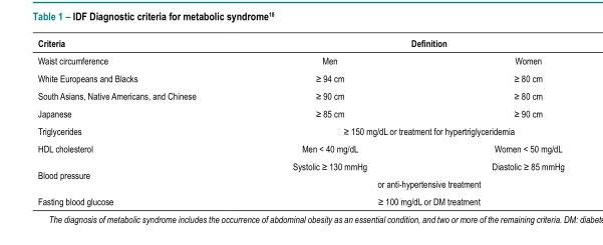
<table><thead><tr><td rowspan="2">Criteria Waist circumference</td><td colspan="2">Definition</td></tr><tr><td>Men</td><td>Women</td></tr></thead><tbody><tr><td>White Europeans and Blacks</td><td>≥ 94 cm</td><td>≥ 80 cm</td></tr><tr><td>South Asians, Native Americans, and Chinese</td><td>≥ 90 cm</td><td>≥ 80 cm</td></tr><tr><td>Japanese</td><td>≥ 85 cm</td><td>≥ 90 cm</td></tr><tr><td>Triglycerides</td><td colspan="2">≥ 150 mg/dL or treatment for hypertriglyceridemia</td></tr><tr><td>HDL cholesterol</td><td>Men &lt; 40 mg/dL</td><td>Women &lt; 50 mg/dL</td></tr><tr><td rowspan="2">Blood pressure</td><td>Systolic ≥ 130 mmHg</td><td>Diastolic ≥ 85 mmHg</td></tr><tr><td colspan="2">or anti-hypertensive treatment</td></tr><tr><td>Fasting blood glucose</td><td colspan="2">≥ 100 mg/dL or DM treatment</td></tr></tbody></table>